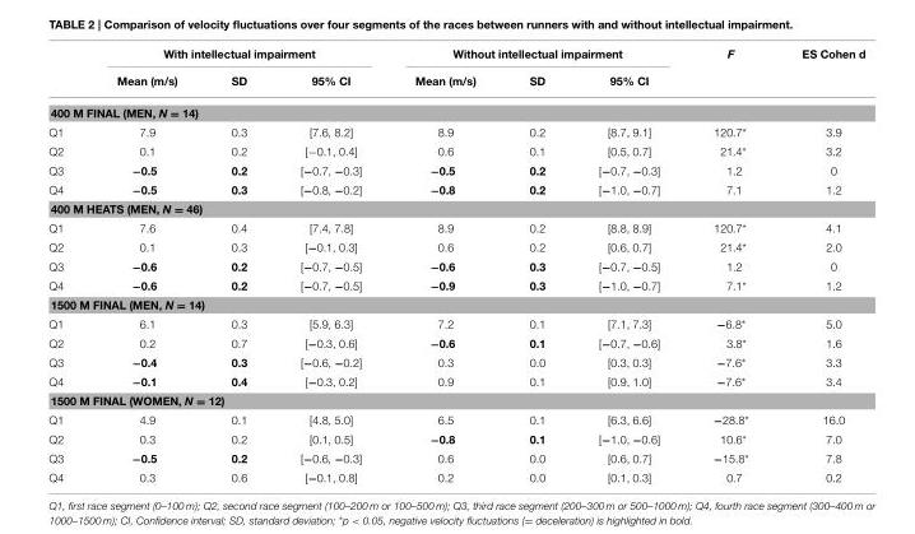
<table><thead><tr><td rowspan="2"></td><td colspan="3">With intellectual impairment</td><td colspan="3">Without intellectual impairment</td><td rowspan="2">F</td><td rowspan="2">ES Cohen d</td></tr><tr><td>Mean (m/s)</td><td>SD</td><td>95% CI</td><td>Mean (m/s)</td><td>SD</td><td>95% CI</td></tr></thead><tbody><tr><td colspan="9">400 M FINAL (MEN, N = 14)</td></tr><tr><td>Q1</td><td>7.9</td><td>0.3</td><td>[7.6, 8.2]</td><td>8.9</td><td>0.2</td><td>[8.7, 9.1]</td><td>120.7*</td><td>3.9</td></tr><tr><td>Q2</td><td>0.1</td><td>0.2</td><td>[−0.1, 0.4]</td><td>0.6</td><td>0.1</td><td>[0.5, 0.7]</td><td>21.4*</td><td>3.2</td></tr><tr><td>Q3</td><td>−0.5</td><td>0.2</td><td>[−0.7, −0.3]</td><td>−0.5</td><td>0.2</td><td>[−0.7, −0.3]</td><td>1.2</td><td>0</td></tr><tr><td>Q4</td><td>−0.5</td><td>0.3</td><td>[−0.8, −0.2]</td><td>−0.8</td><td>0.2</td><td>[−1.0, −0.7]</td><td>7.1</td><td>1.2</td></tr><tr><td colspan="9">400 M HEATS (MEN, N = 46)</td></tr><tr><td>Q1</td><td>7.6</td><td>0.4</td><td>[7.4, 7.8]</td><td>8.9</td><td>0.2</td><td>[8.8, 8.9]</td><td>120.7*</td><td>4.1</td></tr><tr><td>Q2</td><td>0.1</td><td>0.3</td><td>[−0.1, 0.3]</td><td>0.6</td><td>0.2</td><td>[0.6, 0.7]</td><td>21.4*</td><td>2.0</td></tr><tr><td>Q3</td><td>−0.6</td><td>0.2</td><td>[−0.7, −0.5]</td><td>−0.6</td><td>0.3</td><td>[−0.7, −0.5]</td><td>1.2</td><td>0</td></tr><tr><td>Q4</td><td>−0.6</td><td>0.2</td><td>[−0.7, −0.5]</td><td>−0.9</td><td>0.3</td><td>[−1.0, −0.7]</td><td>7.1*</td><td>1.2</td></tr><tr><td colspan="9">1500 M FINAL (MEN, N = 14)</td></tr><tr><td>Q1</td><td>6.1</td><td>0.3</td><td>[5.9, 6.3]</td><td>7.2</td><td>0.1</td><td>[7.1, 7.3]</td><td>−6.8*</td><td>5.0</td></tr><tr><td>Q2</td><td>0.2</td><td>0.7</td><td>[−0.3, 0.6]</td><td>−0.6</td><td>0.1</td><td>[−0.7, −0.6]</td><td>3.8*</td><td>1.6</td></tr><tr><td>Q3</td><td>−0.4</td><td>0.3</td><td>[−0.6, −0.2]</td><td>0.3</td><td>0.0</td><td>[0.3, 0.3]</td><td>−7.6*</td><td>3.3</td></tr><tr><td>Q4</td><td>−0.1</td><td>0.4</td><td>[−0.3, 0.2]</td><td>0.9</td><td>0.1</td><td>[0.9, 1.0]</td><td>−7.6*</td><td>3.4</td></tr><tr><td colspan="9">1500 M FINAL (WOMEN, N = 12)</td></tr><tr><td>Q1</td><td>4.9</td><td>0.1</td><td>[4.8, 5.0]</td><td>6.5</td><td>0.1</td><td>[6.3, 6.6]</td><td>−28.8*</td><td>16.0</td></tr><tr><td>Q2</td><td>0.3</td><td>0.2</td><td>[0.1, 0.5]</td><td>−0.8</td><td>0.1</td><td>[−1.0, −0.6]</td><td>10.6*</td><td>7.0</td></tr><tr><td>Q3</td><td>−0.5</td><td>0.2</td><td>[−0.6, −0.3]</td><td>0.6</td><td>0.0</td><td>[0.6, 0.7]</td><td>−15.8*</td><td>7.8</td></tr><tr><td>Q4</td><td>0.3</td><td>0.6</td><td>[−0.1, 0.8]</td><td>0.2</td><td>0.0</td><td>[0.1, 0.3]</td><td>0.7</td><td>0.2</td></tr></tbody></table>